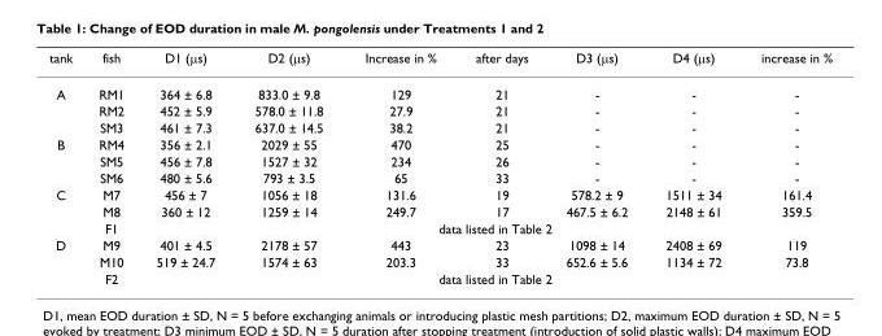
<table><thead><tr><td>tank</td><td>fish</td><td>D1 (μs)</td><td>D2 (μs)</td><td>Increase in %</td><td>after days</td><td>D3 (μs)</td><td>D4 (μs)</td><td>increase in %</td></tr></thead><tbody><tr><td rowspan="3">A</td><td>RM1</td><td>364 ± 6.8</td><td>833.0 ± 9.8</td><td>129</td><td>21</td><td>-</td><td>-</td><td>-</td></tr><tr><td>RM2</td><td>452 ± 5.9</td><td>578.0 ± 11.8</td><td>27.9</td><td>21</td><td>-</td><td>-</td><td>-</td></tr><tr><td>SM3</td><td>461 ± 7.3</td><td>637.0 ± 14.5</td><td>38.2</td><td>21</td><td>-</td><td>-</td><td>-</td></tr><tr><td rowspan="3">B</td><td>RM4</td><td>356 ± 2.1</td><td>2029 ± 55</td><td>470</td><td>25</td><td>-</td><td>-</td><td>-</td></tr><tr><td>SM5</td><td>456 ± 7.8</td><td>1527 ± 32</td><td>234</td><td>26</td><td>-</td><td>-</td><td>-</td></tr><tr><td>SM6</td><td>480 ± 5.6</td><td>793 ± 3.5</td><td>65</td><td>33</td><td>-</td><td>-</td><td>-</td></tr><tr><td rowspan="3">C</td><td>M7</td><td>456 ± 7</td><td>1056 ± 18</td><td>131.6</td><td>19</td><td>578.2 ± 9</td><td>1511 ± 34</td><td>161.4</td></tr><tr><td>M8</td><td>360 ± 12</td><td>1259 ± 14</td><td>249.7</td><td>17</td><td>467.5 ± 6.2</td><td>2148 ± 61</td><td>359.5</td></tr><tr><td>F1</td><td colspan="7">data listed in Table 2</td></tr><tr><td rowspan="3">D</td><td>M9</td><td>401 ± 4.5</td><td>2178 ± 57</td><td>443</td><td>23</td><td>1098 ± 14</td><td>2408 ± 69</td><td>119</td></tr><tr><td>M10</td><td>519 ± 24.7</td><td>1574 ± 63</td><td>203.3</td><td>33</td><td>652.6 ± 5.6</td><td>1134 ± 72</td><td>73.8</td></tr><tr><td>F2</td><td colspan="7">data listed in Table 2</td></tr></tbody></table>